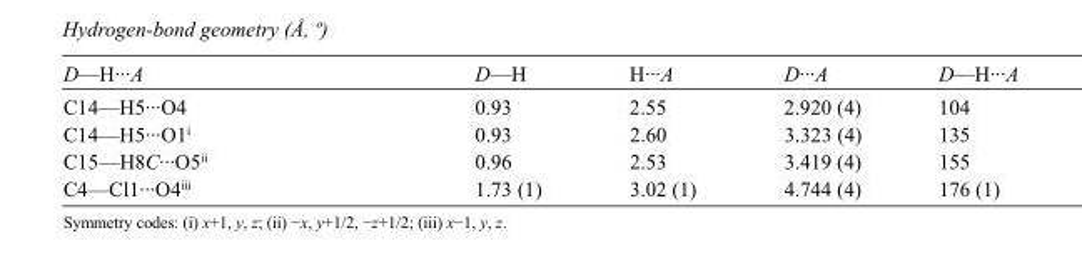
<table><tbody><tr><td>D—H···A</td><td>D—H</td><td>H···A</td><td>D···A</td><td>D—H···A</td></tr><tr><td>C14—H5···O4</td><td>0.93</td><td>2.55</td><td>2.920 (4)</td><td>104</td></tr><tr><td>C14—H5···O1<sup>i</sup></td><td>0.93</td><td>2.60</td><td>3.323 (4)</td><td>135</td></tr><tr><td>C15—H8C···O5<sup>ii</sup></td><td>0.96</td><td>2.53</td><td>3.419 (4)</td><td>155</td></tr><tr><td>C4—Cl1···O4<sup>iii</sup></td><td>1.73 (1)</td><td>3.02 (1)</td><td>4.744 (4)</td><td>176 (1)</td></tr></tbody></table>